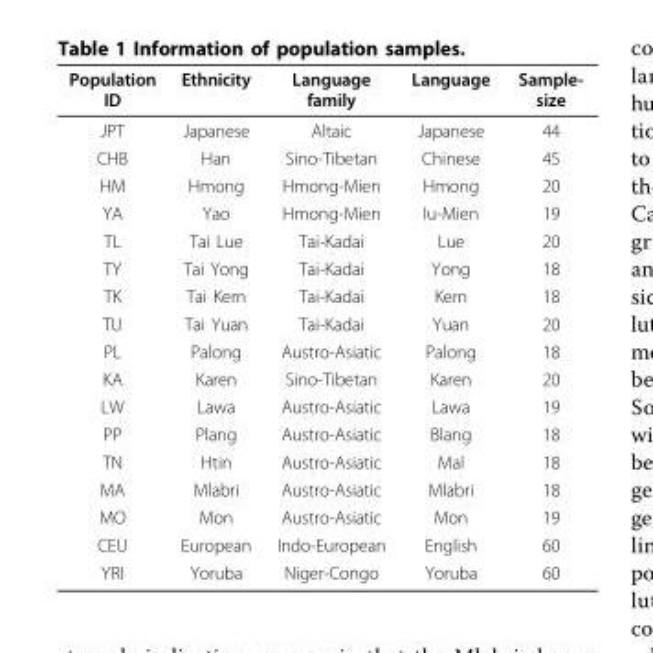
<table><thead><tr><td>Population ID</td><td>Ethnicity</td><td>Language family</td><td>Language</td><td>Sample- size</td></tr></thead><tbody><tr><td>JPT</td><td>Japanese</td><td>Altaic</td><td>Japanese</td><td>44</td></tr><tr><td>CHB</td><td>Han</td><td>Sino-Tibetan</td><td>Chinese</td><td>45</td></tr><tr><td>HM</td><td>Hmong</td><td>Hmong-Mien</td><td>Hmong</td><td>20</td></tr><tr><td>YA</td><td>Yao</td><td>Hmong-Mien</td><td>Iu-Mien</td><td>19</td></tr><tr><td>TL</td><td>Tai Lue</td><td>Tai-Kadai</td><td>Lue</td><td>20</td></tr><tr><td>TY</td><td>Tai Yong</td><td>Tai-Kadai</td><td>Yong</td><td>18</td></tr><tr><td>TK</td><td>Tai Kern</td><td>Tai-Kadai</td><td>Kern</td><td>18</td></tr><tr><td>TU</td><td>Tai Yuan</td><td>Tai-Kadai</td><td>Yuan</td><td>20</td></tr><tr><td>PL</td><td>Palong</td><td>Austro-Asiatic</td><td>Palong</td><td>18</td></tr><tr><td>KA</td><td>Karen</td><td>Sino-Tibetan</td><td>Karen</td><td>20</td></tr><tr><td>LW</td><td>Lawa</td><td>Austro-Asiatic</td><td>Lawa</td><td>19</td></tr><tr><td>PP</td><td>Plang</td><td>Austro-Asiatic</td><td>Blang</td><td>18</td></tr><tr><td>TN</td><td>Htin</td><td>Austro-Asiatic</td><td>Mal</td><td>18</td></tr><tr><td>MA</td><td>Mlabri</td><td>Austro-Asiatic</td><td>Mlabri</td><td>18</td></tr><tr><td>MO</td><td>Mon</td><td>Austro-Asiatic</td><td>Mon</td><td>19</td></tr><tr><td>CEU</td><td>European</td><td>Indo-European</td><td>English</td><td>60</td></tr><tr><td>YRI</td><td>Yoruba</td><td>Niger-Congo</td><td>Yoruba</td><td>60</td></tr></tbody></table>